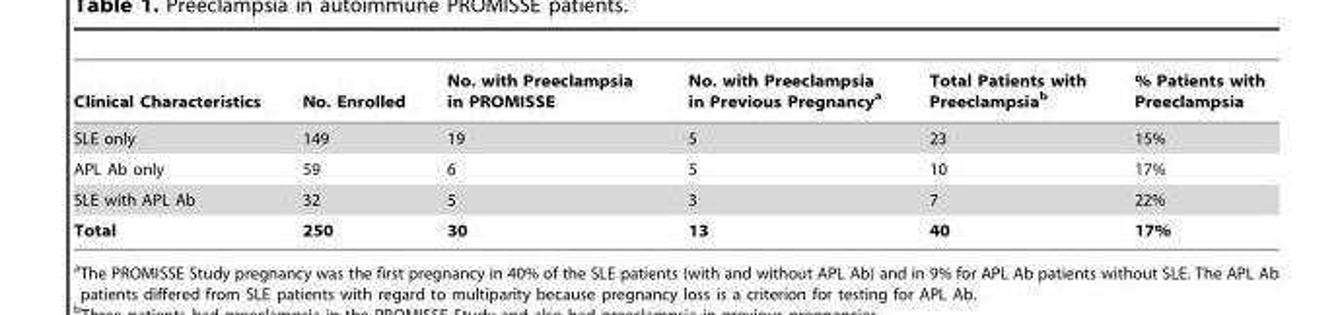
<table><thead><tr><td>Clinical Characteristics</td><td>No. Enrolled</td><td>No. with Preeclampsia in PROMISSE</td><td>No. with Preeclampsia in Previous Pregnancy<sup>a</sup></td><td>Total Patients with Preeclampsia<sup>b</sup></td><td>% Patients with Preeclampsia</td></tr></thead><tbody><tr><td>SLE only</td><td>149</td><td>19</td><td>5</td><td>23</td><td>15%</td></tr><tr><td>APL Ab only</td><td>59</td><td>6</td><td>5</td><td>10</td><td>17%</td></tr><tr><td>SLE with APL Ab</td><td>32</td><td>5</td><td>3</td><td>7</td><td>22%</td></tr><tr><td>Total</td><td>250</td><td>30</td><td>13</td><td>40</td><td>17%</td></tr></tbody></table>